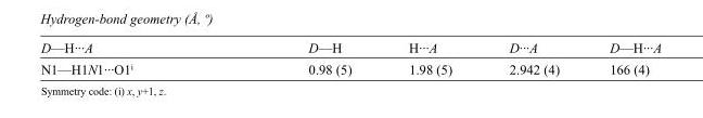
<table><tbody><tr><td>D—H···A</td><td>D—H</td><td>H···A</td><td>D···A</td><td>D—H···A</td></tr><tr><td>N1—H1N1···O1<sup>i</sup></td><td>0.98 (5)</td><td>1.98 (5)</td><td>2.942 (4)</td><td>166 (4)</td></tr></tbody></table>